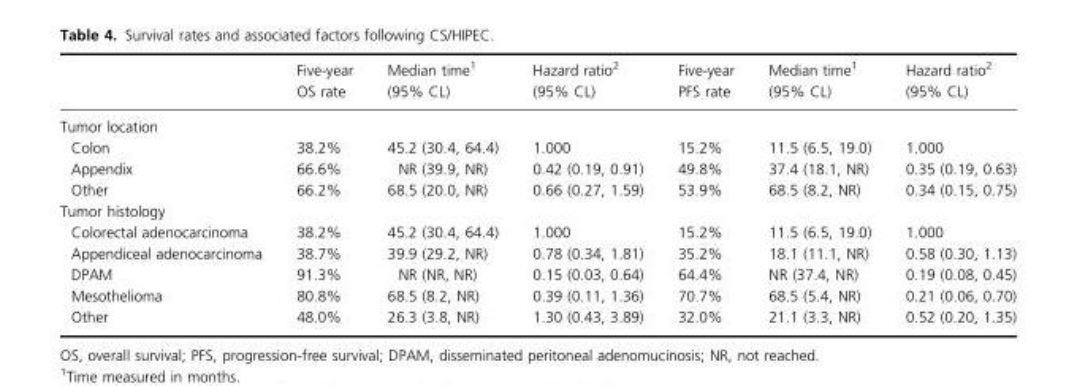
<table><thead><tr><td></td><td>Five-year OS rate</td><td>Median time<sup>1</sup> (95% CL)</td><td>Hazard ratio<sup>2</sup> (95% CL)</td><td>Five-year PFS rate</td><td>Median time<sup>1</sup> (95% CL)</td><td>Hazard ratio<sup>2</sup> (95% CL)</td></tr></thead><tbody><tr><td colspan="7">Tumor location</td></tr><tr><td>Colon</td><td>38.2%</td><td>45.2 (30.4, 64.4)</td><td>1.000</td><td>15.2%</td><td>11.5 (6.5, 19.0)</td><td>1.000</td></tr><tr><td>Appendix</td><td>66.6%</td><td>NR (39.9, NR)</td><td>0.42 (0.19, 0.91)</td><td>49.8%</td><td>37.4 (18.1, NR)</td><td>0.35 (0.19, 0.63)</td></tr><tr><td>Other</td><td>66.2%</td><td>68.5 (20.0, NR)</td><td>0.66 (0.27, 1.59)</td><td>53.9%</td><td>68.5 (8.2, NR)</td><td>0.34 (0.15, 0.75)</td></tr><tr><td colspan="7">Tumor histology</td></tr><tr><td>Colorectal adenocarcinoma</td><td>38.2%</td><td>45.2 (30.4, 64.4)</td><td>1.000</td><td>15.2%</td><td>11.5 (6.5, 19.0)</td><td>1.000</td></tr><tr><td>Appendiceal adenocarcinoma</td><td>38.7%</td><td>39.9 (29.2, NR)</td><td>0.78 (0.34, 1.81)</td><td>35.2%</td><td>18.1 (11.1, NR)</td><td>0.58 (0.30, 1.13)</td></tr><tr><td>DPAM</td><td>91.3%</td><td>NR (NR, NR)</td><td>0.15 (0.03, 0.64)</td><td>64.4%</td><td>NR (37.4, NR)</td><td>0.19 (0.08, 0.45)</td></tr><tr><td>Mesothelioma</td><td>80.8%</td><td>68.5 (8.2, NR)</td><td>0.39 (0.11, 1.36)</td><td>70.7%</td><td>68.5 (5.4, NR)</td><td>0.21 (0.06, 0.70)</td></tr><tr><td>Other</td><td>48.0%</td><td>26.3 (3.8, NR)</td><td>1.30 (0.43, 3.89)</td><td>32.0%</td><td>21.1 (3.3, NR)</td><td>0.52 (0.20, 1.35)</td></tr></tbody></table>